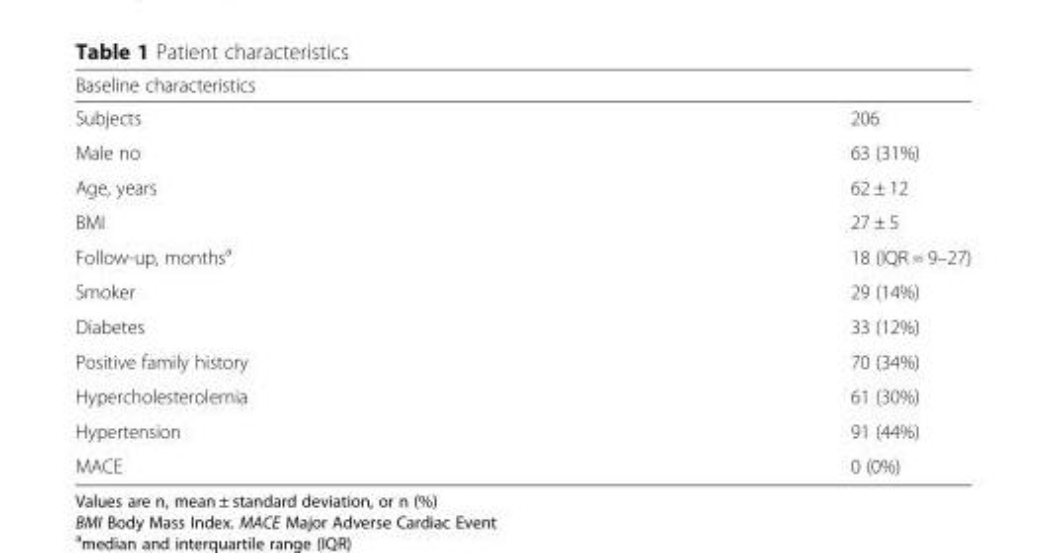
<table><thead><tr><td>Baseline characteristics</td><td></td></tr></thead><tbody><tr><td>Subjects</td><td>206</td></tr><tr><td>Male no</td><td>63 (31%)</td></tr><tr><td>Age, years</td><td>62 ± 12</td></tr><tr><td>BMI</td><td>27 ± 5</td></tr><tr><td>Follow-up, months<sup>a</sup></td><td>18 (IQR = 9–27)</td></tr><tr><td>Smoker</td><td>29 (14%)</td></tr><tr><td>Diabetes</td><td>33 (12%)</td></tr><tr><td>Positive family history</td><td>70 (34%)</td></tr><tr><td>Hypercholesterolemia</td><td>61 (30%)</td></tr><tr><td>Hypertension</td><td>91 (44%)</td></tr><tr><td>MACE</td><td>0 (0%)</td></tr></tbody></table>